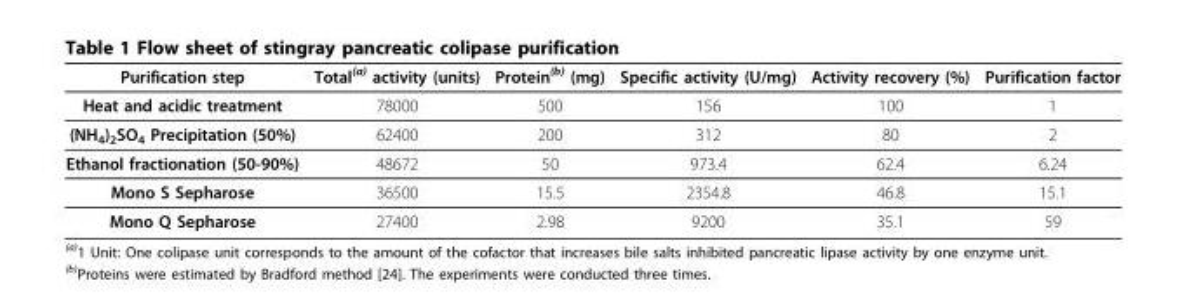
<table><thead><tr><td>Purification step</td><td>Total<sup>(a)</sup> activity (units)</td><td>Protein<sup>(b)</sup> (mg)</td><td>Specific activity (U/mg)</td><td>Activity recovery (%)</td><td>Purification factor</td></tr></thead><tbody><tr><td>Heat and acidic treatment</td><td>78000</td><td>500</td><td>156</td><td>100</td><td>1</td></tr><tr><td>(NH<sub>4</sub>)<sub>2</sub>SO<sub>4</sub> Precipitation (50%)</td><td>62400</td><td>200</td><td>312</td><td>80</td><td>2</td></tr><tr><td>Ethanol fractionation (50-90%)</td><td>48672</td><td>50</td><td>973.4</td><td>62.4</td><td>6.24</td></tr><tr><td>Mono S Sepharose</td><td>36500</td><td>15.5</td><td>2354.8</td><td>46.8</td><td>15.1</td></tr><tr><td>Mono Q Sepharose</td><td>27400</td><td>2.98</td><td>9200</td><td>35.1</td><td>59</td></tr></tbody></table>